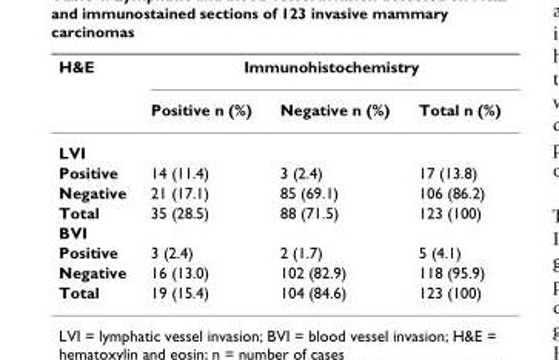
<table><thead><tr><td rowspan="2">H&amp;E</td><td colspan="3">Immunohistochemistry</td></tr><tr><td>Positive n (%)</td><td>Negative n (%)</td><td>Total n (%)</td></tr></thead><tbody><tr><td colspan="4">LVI</td></tr><tr><td>Positive</td><td>14 (11.4)</td><td>3 (2.4)</td><td>17 (13.8)</td></tr><tr><td>Negative</td><td>21 (17.1)</td><td>85 (69.1)</td><td>106 (86.2)</td></tr><tr><td>Total</td><td>35 (28.5)</td><td>88 (71.5)</td><td>123 (100)</td></tr><tr><td colspan="4">BVI</td></tr><tr><td>Positive</td><td>3 (2.4)</td><td>2 (1.7)</td><td>5 (4.1)</td></tr><tr><td>Negative</td><td>16 (13.0)</td><td>102 (82.9)</td><td>118 (95.9)</td></tr><tr><td>Total</td><td>19 (15.4)</td><td>104 (84.6)</td><td>123 (100)</td></tr></tbody></table>